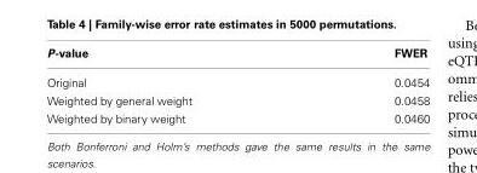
<table><thead><tr><td>P-value</td><td>FWER</td></tr></thead><tbody><tr><td>Original</td><td>0.0454</td></tr><tr><td>Weighted by general weight</td><td>0.0458</td></tr><tr><td>Weighted by binary weight</td><td>0.0460</td></tr></tbody></table>